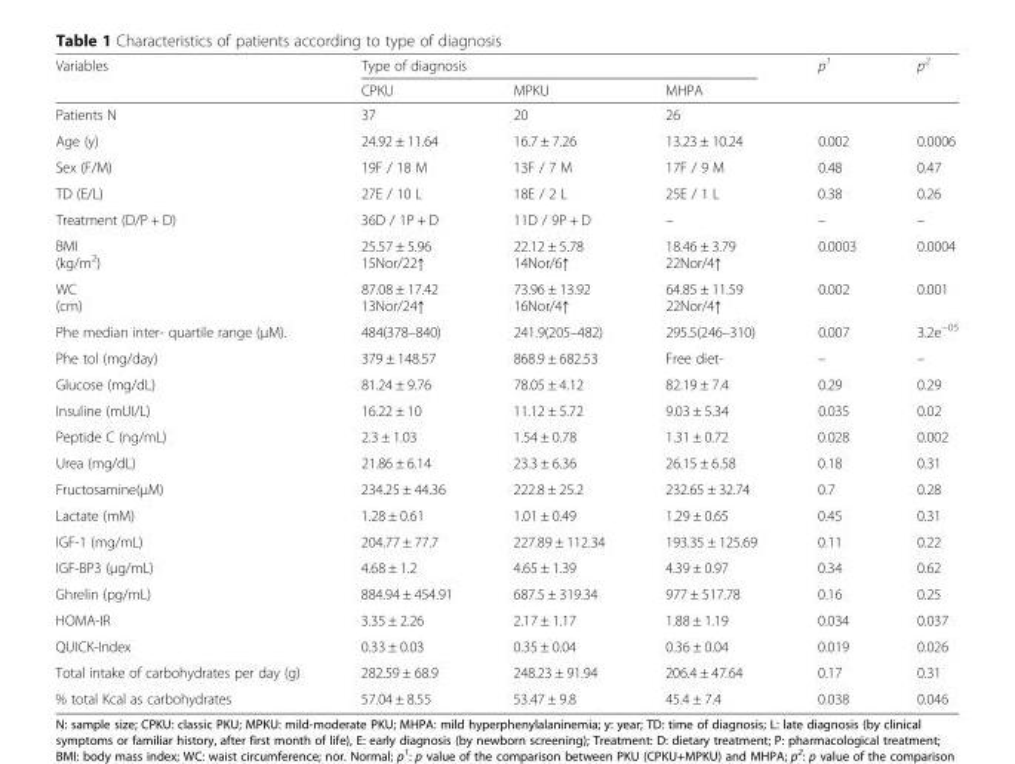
<table><thead><tr><td rowspan="2">Variables</td><td colspan="3">Type of diagnosis</td><td rowspan="2">p<sup>1</sup></td><td rowspan="2">p<sup>2</sup></td></tr><tr><td>CPKU</td><td>MPKU</td><td>MHPA</td></tr></thead><tbody><tr><td>Patients N</td><td>37</td><td>20</td><td>26</td><td></td><td></td></tr><tr><td>Age (y)</td><td>24.92 ± 11.64</td><td>16.7 ± 7.26</td><td>13.23 ± 10.24</td><td>0.002</td><td>0.0006</td></tr><tr><td>Sex (F/M)</td><td>19F / 18 M</td><td>13F / 7 M</td><td>17F / 9 M</td><td>0.48</td><td>0.47</td></tr><tr><td>TD (E/L)</td><td>27E / 10 L</td><td>18E / 2 L</td><td>25E / 1 L</td><td>0.38</td><td>0.26</td></tr><tr><td>Treatment (D/P + D)</td><td>36D / 1P + D</td><td>11D / 9P + D</td><td>–</td><td>–</td><td>–</td></tr><tr><td>BMI (kg/m<sup>2</sup>)</td><td>25.57 ± 5.96 15Nor/22↑</td><td>22.12 ± 5.78 14Nor/6↑</td><td>18.46 ± 3.79 22Nor/4↑</td><td>0.0003</td><td>0.0004</td></tr><tr><td>WC (cm)</td><td>87.08 ± 17.42 13Nor/24↑</td><td>73.96 ± 13.92 16Nor/4↑</td><td>64.85 ± 11.59 22Nor/4↑</td><td>0.002</td><td>0.001</td></tr><tr><td>Phe median inter- quartile range (μM).</td><td>484(378–840)</td><td>241.9(205–482)</td><td>295.5(246–310)</td><td>0.007</td><td>3.2e<sup>−05</sup></td></tr><tr><td>Phe tol (mg/day)</td><td>379 ± 148.57</td><td>868.9 ± 682.53</td><td>Free diet-</td><td>–</td><td>–</td></tr><tr><td>Glucose (mg/dL)</td><td>81.24 ± 9.76</td><td>78.05 ± 4.12</td><td>82.19 ± 7.4</td><td>0.29</td><td>0.29</td></tr><tr><td>Insuline (mUI/L)</td><td>16.22 ± 10</td><td>11.12 ± 5.72</td><td>9.03 ± 5.34</td><td>0.035</td><td>0.02</td></tr><tr><td>Peptide C (ng/mL)</td><td>2.3 ± 1.03</td><td>1.54 ± 0.78</td><td>1.31 ± 0.72</td><td>0.028</td><td>0.002</td></tr><tr><td>Urea (mg/dL)</td><td>21.86 ± 6.14</td><td>23.3 ± 6.36</td><td>26.15 ± 6.58</td><td>0.18</td><td>0.31</td></tr><tr><td>Fructosamine(μM)</td><td>234.25 ± 44.36</td><td>222.8 ± 25.2</td><td>232.65 ± 32.74</td><td>0.7</td><td>0.28</td></tr><tr><td>Lactate (mM)</td><td>1.28 ± 0.61</td><td>1.01 ± 0.49</td><td>1.29 ± 0.65</td><td>0.45</td><td>0.31</td></tr><tr><td>IGF-1 (mg/mL)</td><td>204.77 ± 77.7</td><td>227.89 ± 112.34</td><td>193.35 ± 125.69</td><td>0.11</td><td>0.22</td></tr><tr><td>IGF-BP3 (μg/mL)</td><td>4.68 ± 1.2</td><td>4.65 ± 1.39</td><td>4.39 ± 0.97</td><td>0.34</td><td>0.62</td></tr><tr><td>Ghrelin (pg/mL)</td><td>884.94 ± 454.91</td><td>687.5 ± 319.34</td><td>977 ± 517.78</td><td>0.16</td><td>0.25</td></tr><tr><td>HOMA-IR</td><td>3.35 ± 2.26</td><td>2.17 ± 1.17</td><td>1.88 ± 1.19</td><td>0.034</td><td>0.037</td></tr><tr><td>QUICK-Index</td><td>0.33 ± 0.03</td><td>0.35 ± 0.04</td><td>0.36 ± 0.04</td><td>0.019</td><td>0.026</td></tr><tr><td>Total intake of carbohydrates per day (g)</td><td>282.59 ± 68.9</td><td>248.23 ± 91.94</td><td>206.4 ± 47.64</td><td>0.17</td><td>0.31</td></tr><tr><td>% total Kcal as carbohydrates</td><td>57.04 ± 8.55</td><td>53.47 ± 9.8</td><td>45.4 ± 7.4</td><td>0.038</td><td>0.046</td></tr></tbody></table>